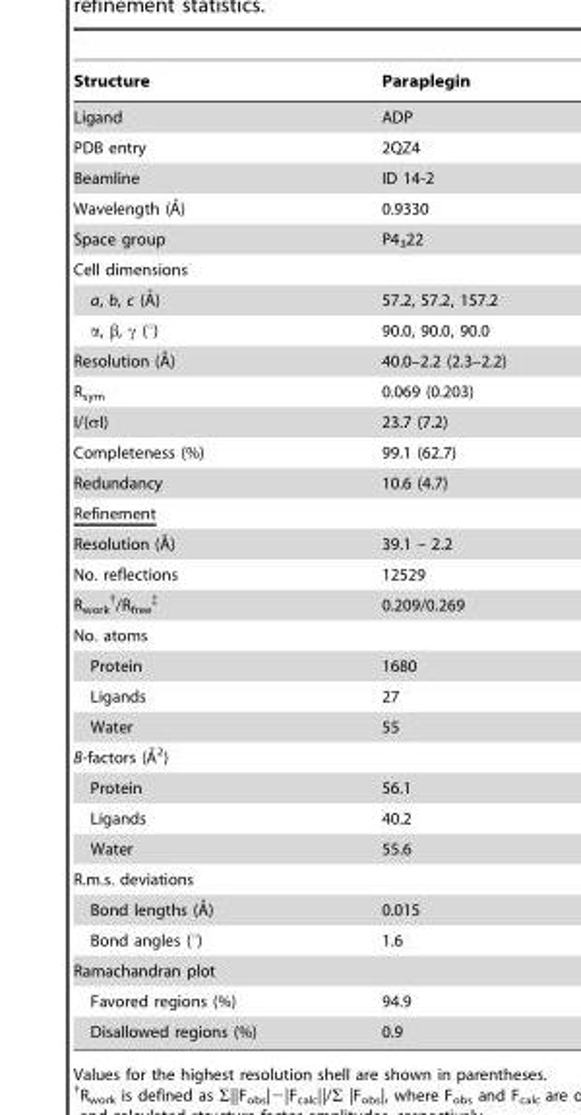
<table><thead><tr><td>Structure</td><td>Paraplegin</td></tr></thead><tbody><tr><td>Ligand</td><td>ADP</td></tr><tr><td>PDB entry</td><td>2QZ4</td></tr><tr><td>Beamline</td><td>ID 14-2</td></tr><tr><td>Wavelength (A˚)</td><td>0.9330</td></tr><tr><td>Space group</td><td>P4<sub>3</sub>22</td></tr><tr><td colspan="2">Cell dimensions</td></tr><tr><td>a, b, c (A˚)</td><td>57.2, 57.2, 157.2</td></tr><tr><td>α, β, γ (°)</td><td>90.0, 90.0, 90.0</td></tr><tr><td>Resolution (A˚)</td><td>40.0–2.2 (2.3–2.2)</td></tr><tr><td>R<sub>sym</sub></td><td>0.069 (0.203)</td></tr><tr><td>I/(σI)</td><td>23.7 (7.2)</td></tr><tr><td>Completeness (%)</td><td>99.1 (62.7)</td></tr><tr><td>Redundancy</td><td>10.6 (4.7)</td></tr><tr><td colspan="2">Refinement</td></tr><tr><td>Resolution (A˚)</td><td>39.1 – 2.2</td></tr><tr><td>No. reflections</td><td>12529</td></tr><tr><td>R<sub>work</sub> †/R<sub>free</sub> ‡</td><td>0.209/0.269</td></tr><tr><td colspan="2">No. atoms</td></tr><tr><td>Protein</td><td>1680</td></tr><tr><td>Ligands</td><td>27</td></tr><tr><td>Water</td><td>55</td></tr><tr><td colspan="2">B-factors (A˚2)</td></tr><tr><td>Protein</td><td>56.1</td></tr><tr><td>Ligands</td><td>40.2</td></tr><tr><td>Water</td><td>55.6</td></tr><tr><td colspan="2">R.m.s. deviations</td></tr><tr><td>Bond lengths (A˚)</td><td>0.015</td></tr><tr><td>Bond angles (°)</td><td>1.6</td></tr><tr><td colspan="2">Ramachandran plot</td></tr><tr><td>Favored regions (%)</td><td>94.9</td></tr><tr><td>Disallowed regions (%)</td><td>0.9</td></tr></tbody></table>